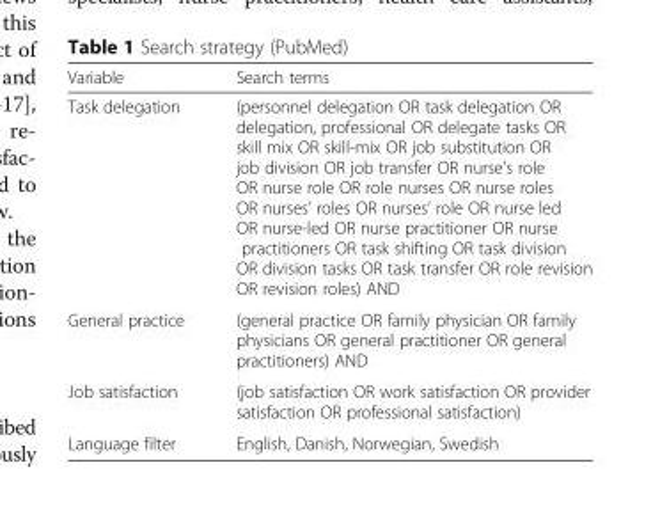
<table><thead><tr><td>Variable</td><td>Search terms</td></tr></thead><tbody><tr><td>Task delegation</td><td>(personnel delegation OR task delegation OR delegation, professional OR delegate tasks OR skill mix OR skill-mix OR job substitution OR job division OR job transfer OR nurse&#x27;s role OR nurse role OR role nurses OR nurse roles OR nurses’ roles OR nurses’ role OR nurse led OR nurse-led OR nurse practitioner OR nurse practitioners OR task shifting OR task division OR division tasks OR task transfer OR role revision OR revision roles) AND</td></tr><tr><td>General practice</td><td>(general practice OR family physician OR family physicians OR general practitioner OR general practitioners) AND</td></tr><tr><td>Job satisfaction</td><td>(job satisfaction OR work satisfaction OR provider satisfaction OR professional satisfaction)</td></tr><tr><td>Language filter</td><td>English, Danish, Norwegian, Swedish</td></tr></tbody></table>